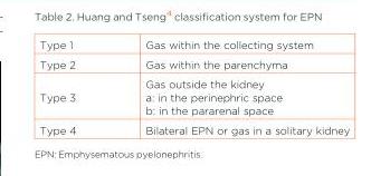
<table><tbody><tr><td>Type 1</td><td>Gas within the collecting system</td></tr><tr><td>Type 2</td><td>Gas within the parenchyma</td></tr><tr><td>Type 3</td><td>Gas outside the kidney a: in the perinephric space b: in the pararenal space</td></tr><tr><td>Type 4</td><td>Bilateral EPN or gas in a solitary kidney</td></tr></tbody></table>